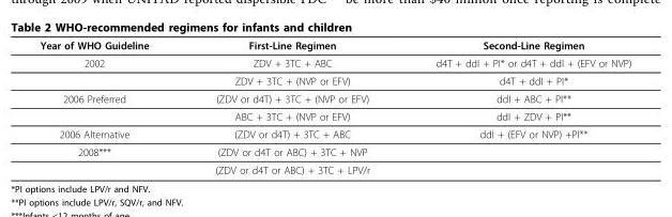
<table><thead><tr><td>Year of WHO Guideline</td><td>First-Line Regimen</td><td>Second-Line Regimen</td></tr></thead><tbody><tr><td rowspan="2">2002</td><td>ZDV + 3TC + ABC</td><td>d4T + ddI + PI* or d4T + ddI + (EFV or NVP)</td></tr><tr><td>ZDV + 3TC + (NVP or EFV)</td><td>d4T + ddI + PI*</td></tr><tr><td rowspan="2">2006 Preferred</td><td>(ZDV or d4T) + 3TC + (NVP or EFV)</td><td>ddI + ABC + PI**</td></tr><tr><td>ABC + 3TC + (NVP or EFV)</td><td>ddI + ZDV + PI**</td></tr><tr><td>2006 Alternative</td><td>(ZDV or d4T) + 3TC + ABC</td><td>ddI + (EFV or NVP) +PI**</td></tr><tr><td rowspan="2">2008***</td><td>(ZDV or d4T or ABC) + 3TC + NVP</td><td></td></tr><tr><td>(ZDV or d4T or ABC) + 3TC + LPV/r</td><td></td></tr></tbody></table>